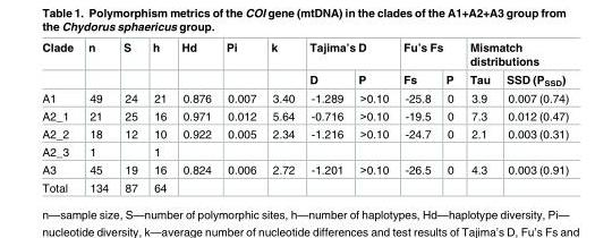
<table><thead><tr><td rowspan="2">Clade</td><td rowspan="2">n</td><td rowspan="2">S</td><td rowspan="2">h</td><td rowspan="2">Hd</td><td rowspan="2">Pi</td><td rowspan="2">k</td><td colspan="2">Tajima’s D</td><td colspan="2">Fu’s Fs</td><td colspan="2">Mismatch distributions</td></tr><tr><td>D</td><td>P</td><td>Fs</td><td>P</td><td>Tau</td><td>SSD (P<sub>SSD</sub>)</td></tr></thead><tbody><tr><td>A1</td><td>49</td><td>24</td><td>21</td><td>0.876</td><td>0.007</td><td>3.40</td><td>-1.289</td><td>&gt;0.10</td><td>-25.8</td><td>0</td><td>3.9</td><td>0.007 (0.74)</td></tr><tr><td>A2_1</td><td>21</td><td>25</td><td>16</td><td>0.971</td><td>0.012</td><td>5.64</td><td>-0.716</td><td>&gt;0.10</td><td>-19.5</td><td>0</td><td>7.3</td><td>0.012 (0.47)</td></tr><tr><td>A2_2</td><td>18</td><td>12</td><td>10</td><td>0.922</td><td>0.005</td><td>2.34</td><td>-1.216</td><td>&gt;0.10</td><td>-24.7</td><td>0</td><td>2.1</td><td>0.003 (0.31)</td></tr><tr><td>A2_3</td><td>1</td><td></td><td>1</td><td></td><td></td><td></td><td></td><td></td><td></td><td></td><td></td><td></td></tr><tr><td>A3</td><td>45</td><td>19</td><td>16</td><td>0.824</td><td>0.006</td><td>2.72</td><td>-1.201</td><td>&gt;0.10</td><td>-26.5</td><td>0</td><td>4.3</td><td>0.003 (0.91)</td></tr><tr><td>Total</td><td>134</td><td>87</td><td>64</td><td></td><td></td><td></td><td></td><td></td><td></td><td></td><td></td><td></td></tr></tbody></table>